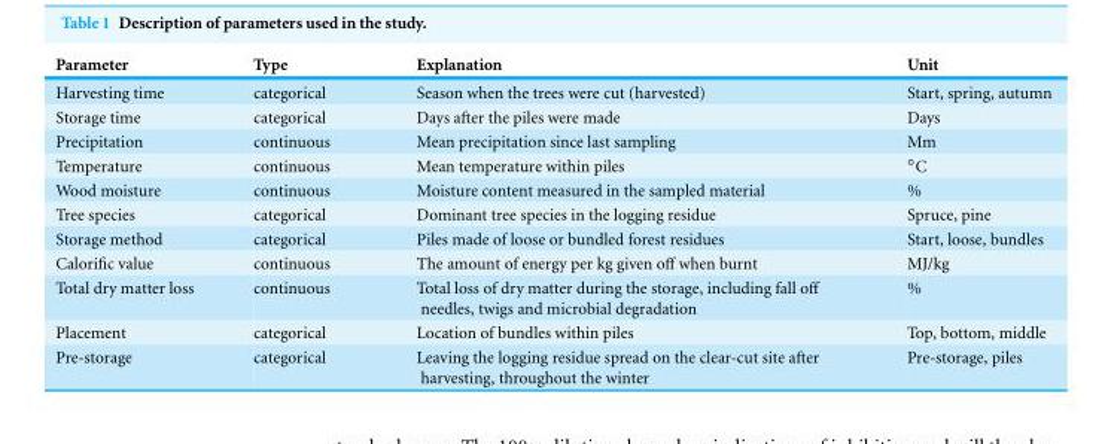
<table><thead><tr><td>Parameter</td><td>Type</td><td>Explanation</td><td>Unit</td></tr></thead><tbody><tr><td>Harvesting time</td><td>categorical</td><td>Season when the trees were cut (harvested)</td><td>Start, spring, autumn</td></tr><tr><td>Storage time</td><td>categorical</td><td>Days after the piles were made</td><td>Days</td></tr><tr><td>Precipitation</td><td>continuous</td><td>Mean precipitation since last sampling</td><td>Mm</td></tr><tr><td>Temperature</td><td>continuous</td><td>Mean temperature within piles</td><td>◦C</td></tr><tr><td>Wood moisture</td><td>continuous</td><td>Moisture content measured in the sampled material</td><td>%</td></tr><tr><td>Tree species</td><td>categorical</td><td>Dominant tree species in the logging residue</td><td>Spruce, pine</td></tr><tr><td>Storage method</td><td>categorical</td><td>Piles made of loose or bundled forest residues</td><td>Start, loose, bundles</td></tr><tr><td>Calorific value</td><td>continuous</td><td>The amount of energy per kg given off when burnt</td><td>MJ/kg</td></tr><tr><td>Total dry matter loss</td><td>continuous</td><td>Total loss of dry matter during the storage, including fall off needles, twigs and microbial degradation</td><td>%</td></tr><tr><td>Placement</td><td>categorical</td><td>Location of bundles within piles</td><td>Top, bottom, middle</td></tr><tr><td>Pre-storage</td><td>categorical</td><td>Leaving the logging residue spread on the clear-cut site after harvesting, throughout the winter</td><td>Pre-storage, piles</td></tr></tbody></table>